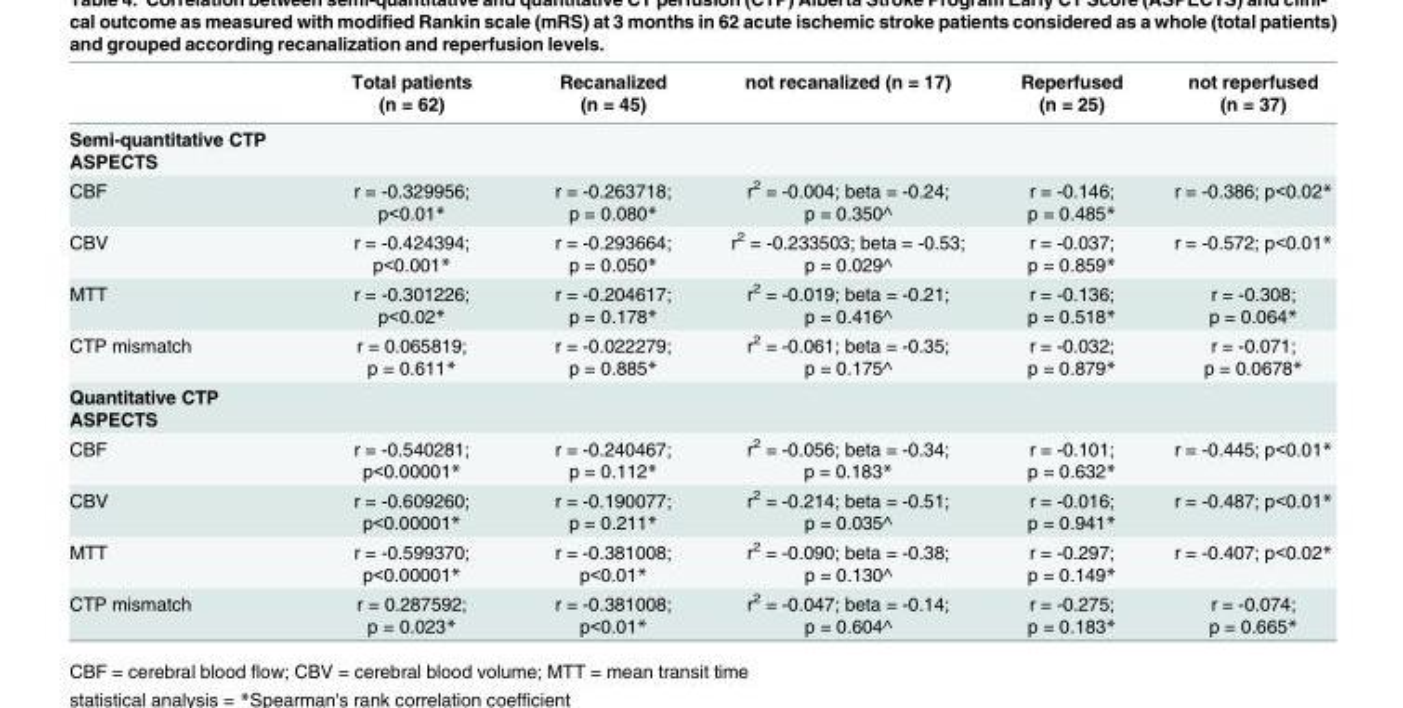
<table><thead><tr><td></td><td>Total patients (n = 62)</td><td>Recanalized (n = 45)</td><td>not recanalized (n = 17)</td><td>Reperfused (n = 25)</td><td>not reperfused (n = 37)</td></tr></thead><tbody><tr><td colspan="6">Semi-quantitative CTP ASPECTS</td></tr><tr><td>CBF</td><td>r = -0.329956; p&lt;0.01*</td><td>r = -0.263718; p = 0.080*</td><td>r<sup>2</sup> = -0.004; beta = -0.24; p = 0.350^</td><td>r = -0.146; p = 0.485*</td><td>r = -0.386; p&lt;0.02*</td></tr><tr><td>CBV</td><td>r = -0.424394; p&lt;0.001*</td><td>r = -0.293664; p = 0.050*</td><td>r<sup>2</sup> = -0.233503; beta = -0.53; p = 0.029^</td><td>r = -0.037; p = 0.859*</td><td>r = -0.572; p&lt;0.01*</td></tr><tr><td>MTT</td><td>r = -0.301226; p&lt;0.02*</td><td>r = -0.204617; p = 0.178*</td><td>r<sup>2</sup> = -0.019; beta = -0.21; p = 0.416^</td><td>r = -0.136; p = 0.518*</td><td>r = -0.308; p = 0.064*</td></tr><tr><td>CTP mismatch</td><td>r = 0.065819; p = 0.611*</td><td>r = -0.022279; p = 0.885*</td><td>r<sup>2</sup> = -0.061; beta = -0.35; p = 0.175^</td><td>r = -0.032; p = 0.879*</td><td>r = -0.071; p = 0.0678*</td></tr><tr><td colspan="6">Quantitative CTP ASPECTS</td></tr><tr><td>CBF</td><td>r = -0.540281; p&lt;0.00001*</td><td>r = -0.240467; p = 0.112*</td><td>r<sup>2</sup> = -0.056; beta = -0.34; p = 0.183*</td><td>r = -0.101; p = 0.632*</td><td>r = -0.445; p&lt;0.01*</td></tr><tr><td>CBV</td><td>r = -0.609260; p&lt;0.00001*</td><td>r = -0.190077; p = 0.211*</td><td>r<sup>2</sup> = -0.214; beta = -0.51; p = 0.035^</td><td>r = -0.016; p = 0.941*</td><td>r = -0.487; p&lt;0.01*</td></tr><tr><td>MTT</td><td>r = -0.599370; p&lt;0.00001*</td><td>r = -0.381008; p&lt;0.01*</td><td>r<sup>2</sup> = -0.090; beta = -0.38; p = 0.130^</td><td>r = -0.297; p = 0.149*</td><td>r = -0.407; p&lt;0.02*</td></tr><tr><td>CTP mismatch</td><td>r = 0.287592; p = 0.023*</td><td>r = -0.381008; p&lt;0.01*</td><td>r<sup>2</sup> = -0.047; beta = -0.14; p = 0.604^</td><td>r = -0.275; p = 0.183*</td><td>r = -0.074; p = 0.665*</td></tr></tbody></table>